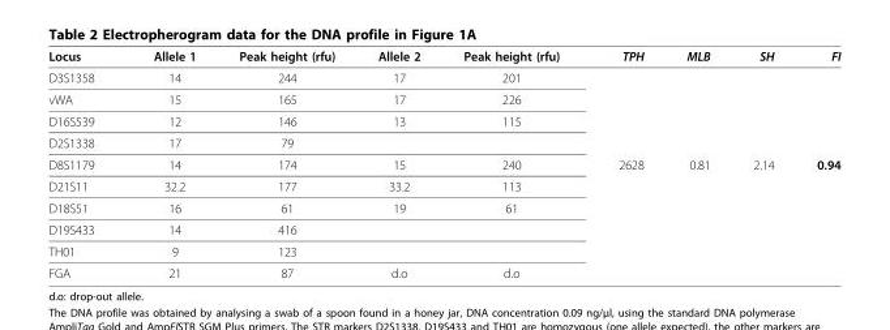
<table><thead><tr><td>Locus</td><td>Allele 1</td><td>Peak height (rfu)</td><td>Allele 2</td><td>Peak height (rfu)</td><td>TPH</td><td>MLB</td><td>SH</td><td>FI</td></tr></thead><tbody><tr><td>D3S1358</td><td>14</td><td>244</td><td>17</td><td>201</td><td></td><td></td><td></td><td></td></tr><tr><td>vWA</td><td>15</td><td>165</td><td>17</td><td>226</td><td></td><td></td><td></td><td></td></tr><tr><td>D16S539</td><td>12</td><td>146</td><td>13</td><td>115</td><td></td><td></td><td></td><td></td></tr><tr><td>D2S1338</td><td>17</td><td>79</td><td></td><td></td><td></td><td></td><td></td><td></td></tr><tr><td>D8S1179</td><td>14</td><td>174</td><td>15</td><td>240</td><td>2628</td><td>0.81</td><td>2.14</td><td>0.94</td></tr><tr><td>D21S11</td><td>32.2</td><td>177</td><td>33.2</td><td>113</td><td></td><td></td><td></td><td></td></tr><tr><td>D18S51</td><td>16</td><td>61</td><td>19</td><td>61</td><td></td><td></td><td></td><td></td></tr><tr><td>D19S433</td><td>14</td><td>416</td><td></td><td></td><td></td><td></td><td></td><td></td></tr><tr><td>TH01</td><td>9</td><td>123</td><td></td><td></td><td></td><td></td><td></td><td></td></tr><tr><td>FGA</td><td>21</td><td>87</td><td>d.o</td><td>d.o</td><td></td><td></td><td></td><td></td></tr></tbody></table>